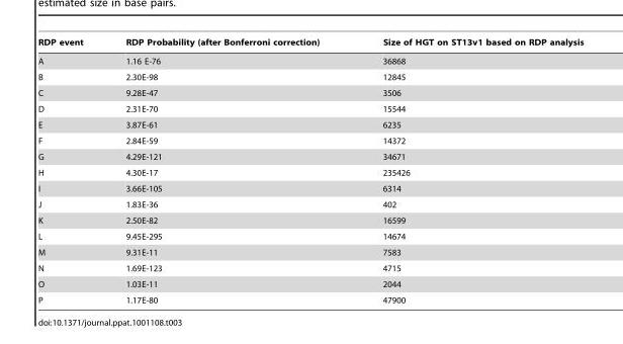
<table><thead><tr><td>RDP event</td><td>RDP Probability (after Bonferroni correction)</td><td>Size of HGT on ST13v1 based on RDP analysis</td></tr></thead><tbody><tr><td>A</td><td>1.16 E-76</td><td>36868</td></tr><tr><td>B</td><td>2.30E-98</td><td>12845</td></tr><tr><td>C</td><td>9.28E-47</td><td>3506</td></tr><tr><td>D</td><td>2.31E-70</td><td>15544</td></tr><tr><td>E</td><td>3.87E-61</td><td>6235</td></tr><tr><td>F</td><td>2.84E-59</td><td>14372</td></tr><tr><td>G</td><td>4.29E-121</td><td>34671</td></tr><tr><td>H</td><td>4.30E-17</td><td>235426</td></tr><tr><td>I</td><td>3.66E-105</td><td>6314</td></tr><tr><td>J</td><td>1.83E-36</td><td>402</td></tr><tr><td>K</td><td>2.50E-82</td><td>16599</td></tr><tr><td>L</td><td>9.45E-295</td><td>14674</td></tr><tr><td>M</td><td>9.31E-11</td><td>7583</td></tr><tr><td>N</td><td>1.69E-123</td><td>4715</td></tr><tr><td>O</td><td>1.03E-11</td><td>2044</td></tr><tr><td>P</td><td>1.17E-80</td><td>47900</td></tr></tbody></table>